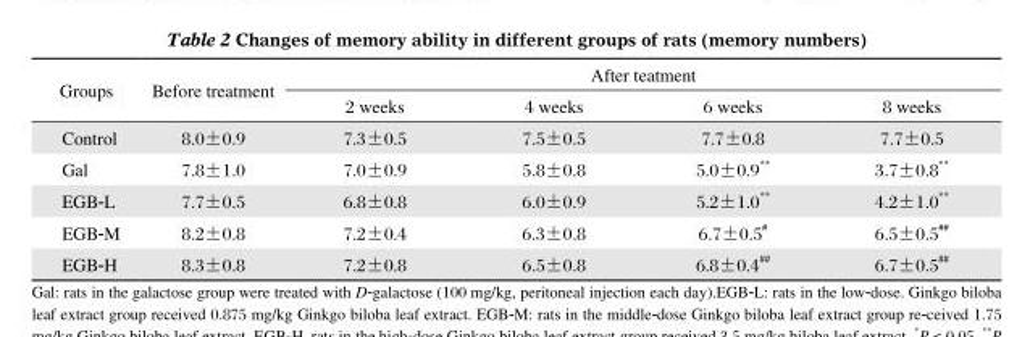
<table><thead><tr><td rowspan="2">Groups</td><td rowspan="2">Before treatment</td><td colspan="4">After teatment</td></tr><tr><td>2 weeks</td><td>4 weeks</td><td>6 weeks</td><td>8 weeks</td></tr></thead><tbody><tr><td>Control</td><td>8.0±0.9</td><td>7.3±0.5</td><td>7.5±0.5</td><td>7.7±0.8</td><td>7.7±0.5</td></tr><tr><td>Gal</td><td>7.8±1.0</td><td>7.0±0.9</td><td>5.8±0.8</td><td>5.0±0.9 **</td><td>3.7±0.8 **</td></tr><tr><td>EGB-L</td><td>7.7±0.5</td><td>6.8±0.8</td><td>6.0±0.9</td><td>5.2±1.0 **</td><td>4.2±1.0 **</td></tr><tr><td>EGB-M</td><td>8.2±0.8</td><td>7.2±0.4</td><td>6.3±0.8</td><td>6.7±0.5 <sup>#</sup></td><td>6.5±0.5 <sup>##</sup></td></tr><tr><td>EGB-H</td><td>8.3±0.8</td><td>7.2±0.8</td><td>6.5±0.8</td><td>6.8±0.4 <sup>##</sup></td><td>6.7±0.5 <sup>##</sup></td></tr></tbody></table>